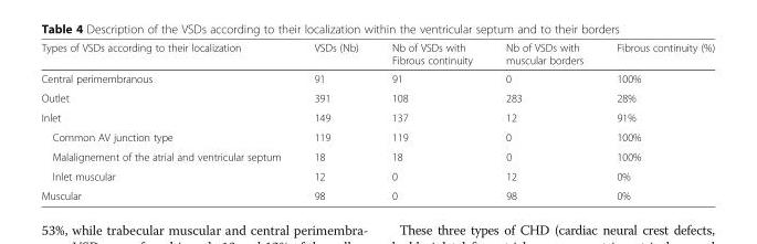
<table><thead><tr><td>Types of VSDs according to their localization</td><td>VSDs (Nb)</td><td>Nb of VSDs with Fibrous continuity</td><td>Nb of VSDs with muscular borders</td><td>Fibrous continuity (%)</td></tr></thead><tbody><tr><td>Central perimembranous</td><td>91</td><td>91</td><td>0</td><td>100%</td></tr><tr><td>Outlet</td><td>391</td><td>108</td><td>283</td><td>28%</td></tr><tr><td>Inlet</td><td>149</td><td>137</td><td>12</td><td>91%</td></tr><tr><td>Common AV junction type</td><td>119</td><td>119</td><td>0</td><td>100%</td></tr><tr><td>Malalignement of the atrial and ventricular septum</td><td>18</td><td>18</td><td>0</td><td>100%</td></tr><tr><td>Inlet muscular</td><td>12</td><td>0</td><td>12</td><td>0%</td></tr><tr><td>Muscular</td><td>98</td><td>0</td><td>98</td><td>0%</td></tr></tbody></table>